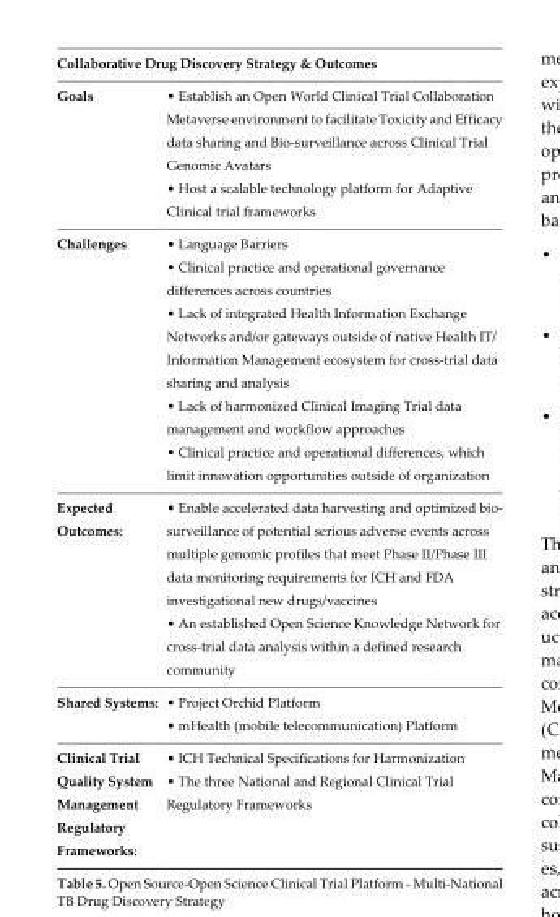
<table><thead><tr><td colspan="2">Collaborative Drug Discovery Strategy &amp; Outcomes</td></tr><tr><td>Goals</td><td>• Establish an Open World Clinical Trial Collaboration Metaverse environment to facilitate Toxicity and Efficacy data sharing and Bio-surveillance across Clinical Trial Genomic Avatars • Host a scalable technology platform for Adaptive Clinical trial frameworks</td></tr></thead><tbody><tr><td>Challenges</td><td>• Language Barriers • Clinical practice and operational governance differences across countries • Lack of integrated Health Information Exchange Networks and/or gateways outside of native Health IT/ Information Management ecosystem for cross-trial data sharing and analysis • Lack of harmonized Clinical Imaging Trial data management and workflow approaches • Clinical practice and operational differences, which limit innovation opportunities outside of organization</td></tr><tr><td>Expected Outcomes:</td><td>• Enable accelerated data harvesting and optimized bio- surveillance of potential serious adverse events across multiple genomic profiles that meet Phase II/Phase III data monitoring requirements for ICH and FDA investigational new drugs/vaccines • An established Open Science Knowledge Network for cross-trial data analysis within a defined research community</td></tr><tr><td>Shared Systems:</td><td>• Project Orchid Platform • mHealth (mobile telecommunication) Platform</td></tr><tr><td>Clinical Trial Quality System Management Regulatory Frameworks:</td><td>• ICH Technical Specifications for Harmonization • The three National and Regional Clinical Trial Regulatory Frameworks</td></tr></tbody></table>